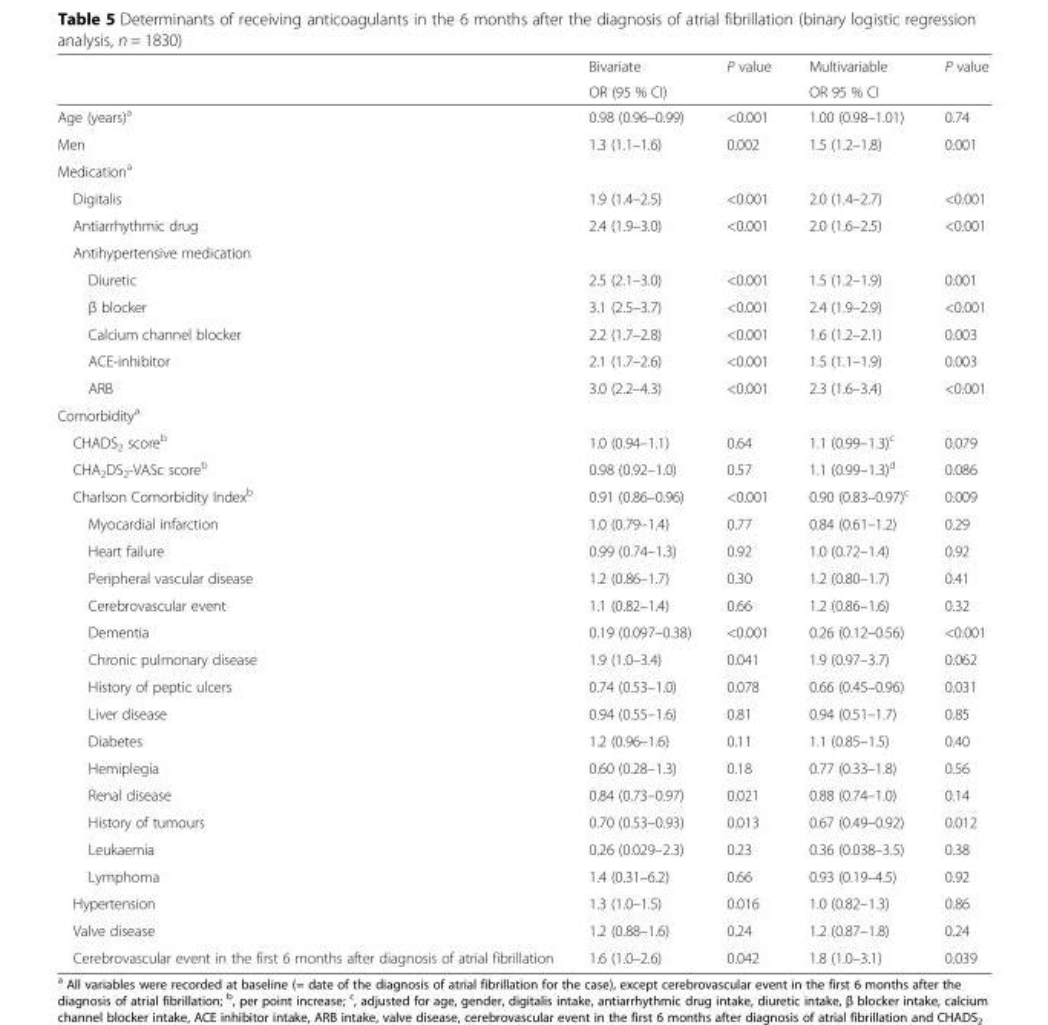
<table><thead><tr><td rowspan="2"></td><td rowspan="2">Bivariate OR (95 % CI)</td><td rowspan="2">P value</td><td rowspan="2">Multivariable OR 95 % CI</td><td rowspan="2">P value</td></tr><tr></tr></thead><tbody><tr><td>Age (years)<sup>a</sup></td><td>0.98 (0.96–0.99)</td><td>&lt;0.001</td><td>1.00 (0.98–1.01)</td><td>0.74</td></tr><tr><td>Men</td><td>1.3 (1.1–1.6)</td><td>0.002</td><td>1.5 (1.2–1.8)</td><td>0.001</td></tr><tr><td colspan="5">Medication<sup>a</sup></td></tr><tr><td>Digitalis</td><td>1.9 (1.4–2.5)</td><td>&lt;0.001</td><td>2.0 (1.4–2.7)</td><td>&lt;0.001</td></tr><tr><td>Antiarrhythmic drug</td><td>2.4 (1.9–3.0)</td><td>&lt;0.001</td><td>2.0 (1.6–2.5)</td><td>&lt;0.001</td></tr><tr><td colspan="5">Antihypertensive medication</td></tr><tr><td>Diuretic</td><td>2.5 (2.1–3.0)</td><td>&lt;0.001</td><td>1.5 (1.2–1.9)</td><td>0.001</td></tr><tr><td>β blocker</td><td>3.1 (2.5–3.7)</td><td>&lt;0.001</td><td>2.4 (1.9–2.9)</td><td>&lt;0.001</td></tr><tr><td>Calcium channel blocker</td><td>2.2 (1.7–2.8)</td><td>&lt;0.001</td><td>1.6 (1.2–2.1)</td><td>0.003</td></tr><tr><td>ACE-inhibitor</td><td>2.1 (1.7–2.6)</td><td>&lt;0.001</td><td>1.5 (1.1–1.9)</td><td>0.003</td></tr><tr><td>ARB</td><td>3.0 (2.2–4.3)</td><td>&lt;0.001</td><td>2.3 (1.6–3.4)</td><td>&lt;0.001</td></tr><tr><td colspan="5">Comorbidity<sup>a</sup></td></tr><tr><td>CHADS<sub>2</sub> score<sup>b</sup></td><td>1.0 (0.94–1.1)</td><td>0.64</td><td>1.1 (0.99–1.3)<sup>c</sup></td><td>0.079</td></tr><tr><td>CHA<sub>2</sub>DS<sub>2</sub>-VASc score<sup>b</sup></td><td>0.98 (0.92–1.0)</td><td>0.57</td><td>1.1 (0.99–1.3)<sup>d</sup></td><td>0.086</td></tr><tr><td>Charlson Comorbidity Index<sup>b</sup></td><td>0.91 (0.86–0.96)</td><td>&lt;0.001</td><td>0.90 (0.83–0.97)<sup>c</sup></td><td>0.009</td></tr><tr><td>Myocardial infarction</td><td>1.0 (0.79–1.4)</td><td>0.77</td><td>0.84 (0.61–1.2)</td><td>0.29</td></tr><tr><td>Heart failure</td><td>0.99 (0.74–1.3)</td><td>0.92</td><td>1.0 (0.72–1.4)</td><td>0.92</td></tr><tr><td>Peripheral vascular disease</td><td>1.2 (0.86–1.7)</td><td>0.30</td><td>1.2 (0.80–1.7)</td><td>0.41</td></tr><tr><td>Cerebrovascular event</td><td>1.1 (0.82–1.4)</td><td>0.66</td><td>1.2 (0.86–1.6)</td><td>0.32</td></tr><tr><td>Dementia</td><td>0.19 (0.097–0.38)</td><td>&lt;0.001</td><td>0.26 (0.12–0.56)</td><td>&lt;0.001</td></tr><tr><td>Chronic pulmonary disease</td><td>1.9 (1.0–3.4)</td><td>0.041</td><td>1.9 (0.97–3.7)</td><td>0.062</td></tr><tr><td>History of peptic ulcers</td><td>0.74 (0.53–1.0)</td><td>0.078</td><td>0.66 (0.45–0.96)</td><td>0.031</td></tr><tr><td>Liver disease</td><td>0.94 (0.55–1.6)</td><td>0.81</td><td>0.94 (0.51–1.7)</td><td>0.85</td></tr><tr><td>Diabetes</td><td>1.2 (0.96–1.6)</td><td>0.11</td><td>1.1 (0.85–1.5)</td><td>0.40</td></tr><tr><td>Hemiplegia</td><td>0.60 (0.28–1.3)</td><td>0.18</td><td>0.77 (0.33–1.8)</td><td>0.56</td></tr><tr><td>Renal disease</td><td>0.84 (0.73–0.97)</td><td>0.021</td><td>0.88 (0.74–1.0)</td><td>0.14</td></tr><tr><td>History of tumours</td><td>0.70 (0.53–0.93)</td><td>0.013</td><td>0.67 (0.49–0.92)</td><td>0.012</td></tr><tr><td>Leukaemia</td><td>0.26 (0.029–2.3)</td><td>0.23</td><td>0.36 (0.038–3.5)</td><td>0.38</td></tr><tr><td>Lymphoma</td><td>1.4 (0.31–6.2)</td><td>0.66</td><td>0.93 (0.19–4.5)</td><td>0.92</td></tr><tr><td>Hypertension</td><td>1.3 (1.0–1.5)</td><td>0.016</td><td>1.0 (0.82–1.3)</td><td>0.86</td></tr><tr><td>Valve disease</td><td>1.2 (0.88–1.6)</td><td>0.24</td><td>1.2 (0.87–1.8)</td><td>0.24</td></tr><tr><td>Cerebrovascular event in the first 6 months after diagnosis of atrial fibrillation</td><td>1.6 (1.0–2.6)</td><td>0.042</td><td>1.8 (1.0–3.1)</td><td>0.039</td></tr></tbody></table>